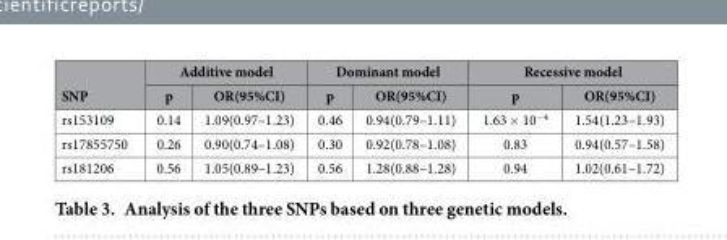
<table><thead><tr><td rowspan="2">SNP</td><td colspan="2">Additive model</td><td colspan="2">Dominant model</td><td colspan="2">Recessive model</td></tr><tr><td>p</td><td>OR(95%CI)</td><td>p</td><td>OR(95%CI)</td><td>p</td><td>OR(95%CI)</td></tr></thead><tbody><tr><td>rs153109</td><td>0.14</td><td>1.09(0.97–1.23)</td><td>0.46</td><td>0.94(0.79–1.11)</td><td>1.63 × 10<sup>−4</sup></td><td>1.54(1.23–1.93)</td></tr><tr><td>rs17855750</td><td>0.26</td><td>0.90(0.74–1.08)</td><td>0.30</td><td>0.92(0.78–1.08)</td><td>0.83</td><td>0.94(0.57–1.58)</td></tr><tr><td>rs181206</td><td>0.56</td><td>1.05(0.89–1.23)</td><td>0.56</td><td>1.28(0.88–1.28)</td><td>0.94</td><td>1.02(0.61–1.72)</td></tr></tbody></table>